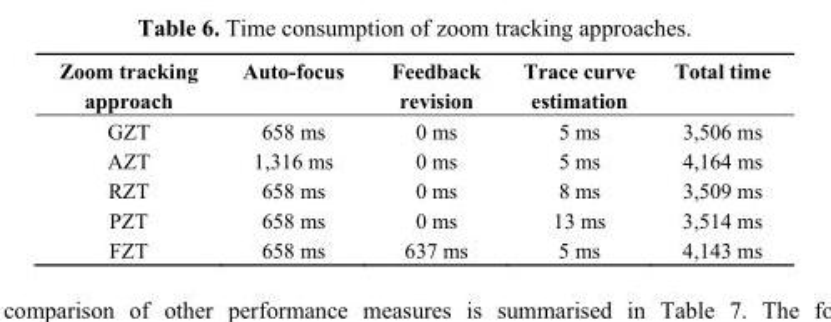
<table><thead><tr><td>Zoom tracking approach</td><td>Auto-focus</td><td>Feedback revision</td><td>Trace curve estimation</td><td>Total time</td></tr></thead><tbody><tr><td>GZT</td><td>658 ms</td><td>0 ms</td><td>5 ms</td><td>3,506 ms</td></tr><tr><td>AZT</td><td>1,316 ms</td><td>0 ms</td><td>5 ms</td><td>4,164 ms</td></tr><tr><td>RZT</td><td>658 ms</td><td>0 ms</td><td>8 ms</td><td>3,509 ms</td></tr><tr><td>PZT</td><td>658 ms</td><td>0 ms</td><td>13 ms</td><td>3,514 ms</td></tr><tr><td>FZT</td><td>658 ms</td><td>637 ms</td><td>5 ms</td><td>4,143 ms</td></tr></tbody></table>